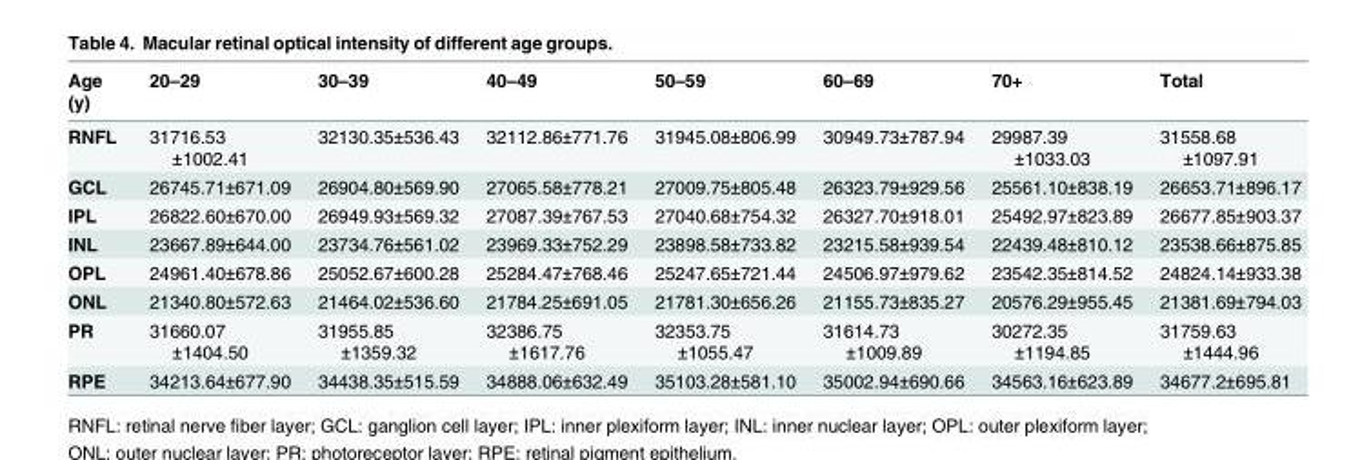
<table><thead><tr><td>Age (y)</td><td>20–29</td><td>30–39</td><td>40–49</td><td>50–59</td><td>60–69</td><td>70+</td><td>Total</td></tr></thead><tbody><tr><td>RNFL</td><td>31716.53 ±1002.41</td><td>32130.35±536.43</td><td>32112.86±771.76</td><td>31945.08±806.99</td><td>30949.73±787.94</td><td>29987.39 ±1033.03</td><td>31558.68 ±1097.91</td></tr><tr><td>GCL</td><td>26745.71±671.09</td><td>26904.80±569.90</td><td>27065.58±778.21</td><td>27009.75±805.48</td><td>26323.79±929.56</td><td>25561.10±838.19</td><td>26653.71±896.17</td></tr><tr><td>IPL</td><td>26822.60±670.00</td><td>26949.93±569.32</td><td>27087.39±767.53</td><td>27040.68±754.32</td><td>26327.70±918.01</td><td>25492.97±823.89</td><td>26677.85±903.37</td></tr><tr><td>INL</td><td>23667.89±644.00</td><td>23734.76±561.02</td><td>23969.33±752.29</td><td>23898.58±733.82</td><td>23215.58±939.54</td><td>22439.48±810.12</td><td>23538.66±875.85</td></tr><tr><td>OPL</td><td>24961.40±678.86</td><td>25052.67±600.28</td><td>25284.47±768.46</td><td>25247.65±721.44</td><td>24506.97±979.62</td><td>23542.35±814.52</td><td>24824.14±933.38</td></tr><tr><td>ONL</td><td>21340.80±572.63</td><td>21464.02±536.60</td><td>21784.25±691.05</td><td>21781.30±656.26</td><td>21155.73±835.27</td><td>20576.29±955.45</td><td>21381.69±794.03</td></tr><tr><td>PR</td><td>31660.07 ±1404.50</td><td>31955.85 ±1359.32</td><td>32386.75 ±1617.76</td><td>32353.75 ±1055.47</td><td>31614.73 ±1009.89</td><td>30272.35 ±1194.85</td><td>31759.63 ±1444.96</td></tr><tr><td>RPE</td><td>34213.64±677.90</td><td>34438.35±515.59</td><td>34888.06±632.49</td><td>35103.28±581.10</td><td>35002.94±690.66</td><td>34563.16±623.89</td><td>34677.2±695.81</td></tr></tbody></table>